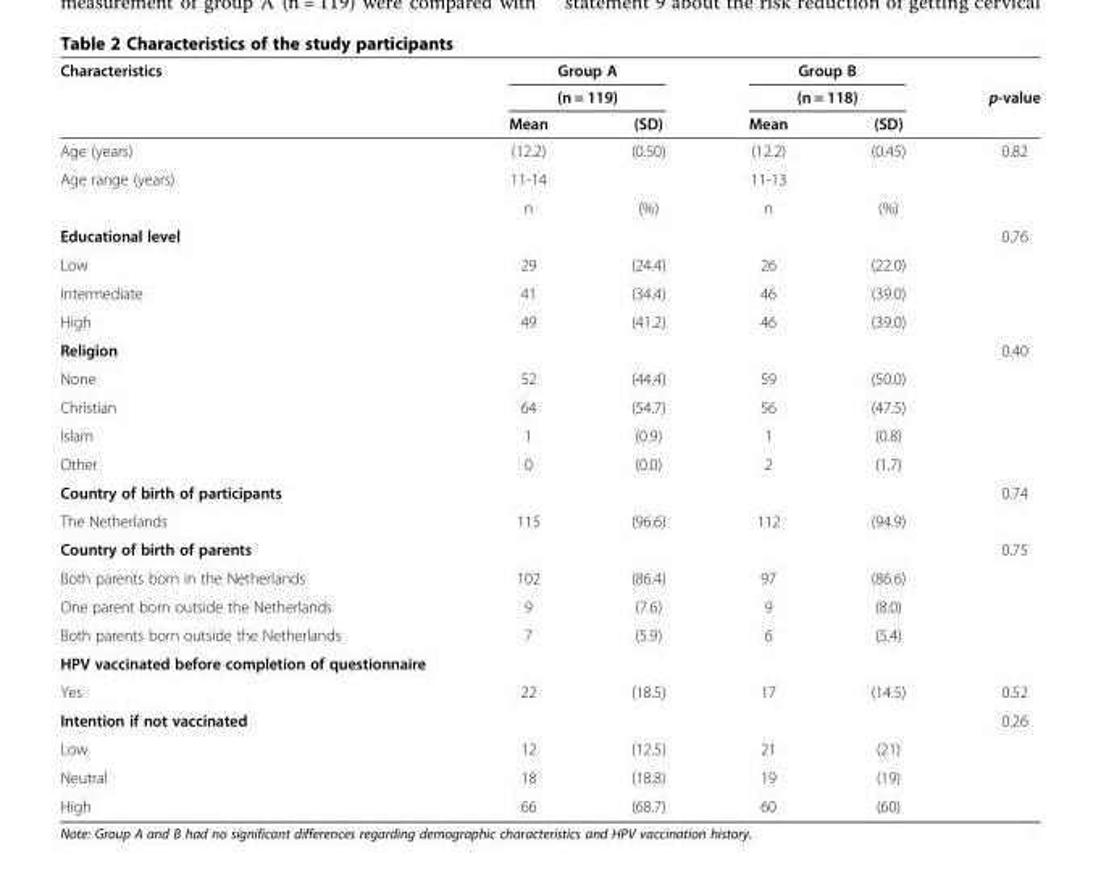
<table><thead><tr><td rowspan="3">Characteristics</td><td rowspan="2" colspan="2">Group A (n = 119)</td><td rowspan="2" colspan="2">Group B (n = 118)</td><td rowspan="3">p-value</td></tr><tr></tr><tr><td>Mean</td><td>(SD)</td><td>Mean</td><td>(SD)</td></tr></thead><tbody><tr><td>Age (years)</td><td>(12.2)</td><td>(0.50)</td><td>(12.2)</td><td>(0.45)</td><td>0.82</td></tr><tr><td rowspan="2">Age range (years)</td><td>11-14</td><td></td><td>11-13</td><td></td><td></td></tr><tr><td>n</td><td>(%)</td><td>n</td><td>(%)</td><td></td></tr><tr><td>Educational level</td><td></td><td></td><td></td><td></td><td>0.76</td></tr><tr><td>Low</td><td>29</td><td>(24.4)</td><td>26</td><td>(22.0)</td><td></td></tr><tr><td>Intermediate</td><td>41</td><td>(34.4)</td><td>46</td><td>(39.0)</td><td></td></tr><tr><td>High</td><td>49</td><td>(41.2)</td><td>46</td><td>(39.0)</td><td></td></tr><tr><td>Religion</td><td></td><td></td><td></td><td></td><td>0.40</td></tr><tr><td>None</td><td>52</td><td>(44.4)</td><td>59</td><td>(50.0)</td><td></td></tr><tr><td>Christian</td><td>64</td><td>(54.7)</td><td>56</td><td>(47.5)</td><td></td></tr><tr><td>Islam</td><td>1</td><td>(0.9)</td><td>1</td><td>(0.8)</td><td></td></tr><tr><td>Other</td><td>0</td><td>(0.0)</td><td>2</td><td>(1.7)</td><td></td></tr><tr><td>Country of birth of participants</td><td></td><td></td><td></td><td></td><td>0.74</td></tr><tr><td>The Netherlands</td><td>115</td><td>(96.6)</td><td>112</td><td>(94.9)</td><td></td></tr><tr><td>Country of birth of parents</td><td></td><td></td><td></td><td></td><td>0.75</td></tr><tr><td>Both parents born in the Netherlands</td><td>102</td><td>(86.4)</td><td>97</td><td>(86.6)</td><td></td></tr><tr><td>One parent born outside the Netherlands</td><td>9</td><td>(7.6)</td><td>9</td><td>(8.0)</td><td></td></tr><tr><td>Both parents born outside the Netherlands</td><td>7</td><td>(5.9)</td><td>6</td><td>(5.4)</td><td></td></tr><tr><td colspan="6">HPV vaccinated before completion of questionnaire</td></tr><tr><td>Yes</td><td>22</td><td>(18.5)</td><td>17</td><td>(14.5)</td><td>0.52</td></tr><tr><td>Intention if not vaccinated</td><td></td><td></td><td></td><td></td><td>0.26</td></tr><tr><td>Low</td><td>12</td><td>(12.5)</td><td>21</td><td>(21)</td><td></td></tr><tr><td>Neutral</td><td>18</td><td>(18.8)</td><td>19</td><td>(19)</td><td></td></tr><tr><td>High</td><td>66</td><td>(68.7)</td><td>60</td><td>(60)</td><td></td></tr></tbody></table>